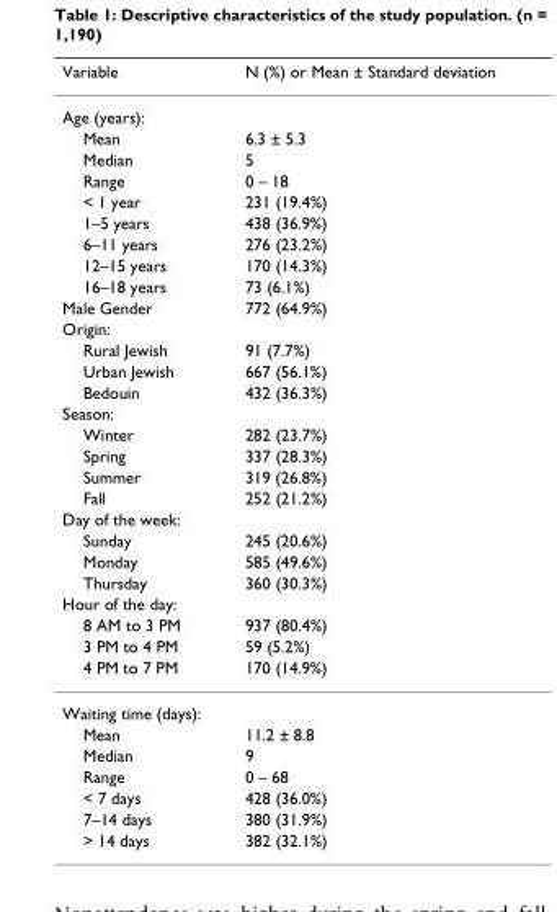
<table><thead><tr><td>Variable</td><td>N (%) or Mean ± Standard deviation</td></tr></thead><tbody><tr><td colspan="2">Age (years):</td></tr><tr><td>Mean</td><td>6.3 ± 5.3</td></tr><tr><td>Median</td><td>5</td></tr><tr><td>Range</td><td>0 – 18</td></tr><tr><td>&lt; 1 year</td><td>231 (19.4%)</td></tr><tr><td>1–5 years</td><td>438 (36.9%)</td></tr><tr><td>6–11 years</td><td>276 (23.2%)</td></tr><tr><td>12–15 years</td><td>170 (14.3%)</td></tr><tr><td>16–18 years</td><td>73 (6.1%)</td></tr><tr><td>Male Gender</td><td>772 (64.9%)</td></tr><tr><td colspan="2">Origin:</td></tr><tr><td>Rural Jewish</td><td>91 (7.7%)</td></tr><tr><td>Urban Jewish</td><td>667 (56.1%)</td></tr><tr><td>Bedouin</td><td>432 (36.3%)</td></tr><tr><td colspan="2">Season:</td></tr><tr><td>Winter</td><td>282 (23.7%)</td></tr><tr><td>Spring</td><td>337 (28.3%)</td></tr><tr><td>Summer</td><td>319 (26.8%)</td></tr><tr><td>Fall</td><td>252 (21.2%)</td></tr><tr><td colspan="2">Day of the week:</td></tr><tr><td>Sunday</td><td>245 (20.6%)</td></tr><tr><td>Monday</td><td>585 (49.6%)</td></tr><tr><td>Thursday</td><td>360 (30.3%)</td></tr><tr><td colspan="2">Hour of the day:</td></tr><tr><td>8 AM to 3 PM</td><td>937 (80.4%)</td></tr><tr><td>3 PM to 4 PM</td><td>59 (5.2%)</td></tr><tr><td>4 PM to 7 PM</td><td>170 (14.9%)</td></tr><tr><td colspan="2">Waiting time (days):</td></tr><tr><td>Mean</td><td>11.2 ± 8.8</td></tr><tr><td>Median</td><td>9</td></tr><tr><td>Range</td><td>0 – 68</td></tr><tr><td>&lt; 7 days</td><td>428 (36.0%)</td></tr><tr><td>7–14 days</td><td>380 (31.9%)</td></tr><tr><td>&gt; 14 days</td><td>382 (32.1%)</td></tr></tbody></table>